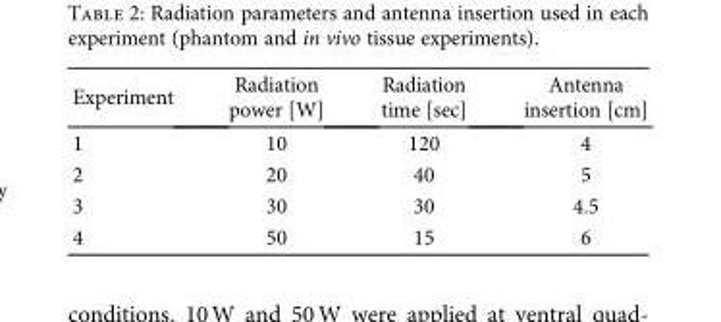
<table><thead><tr><td>Experiment</td><td>Radiation power [W]</td><td>Radiation time [sec]</td><td>Antenna insertion [cm]</td></tr></thead><tbody><tr><td>1</td><td>10</td><td>120</td><td>4</td></tr><tr><td>2</td><td>20</td><td>40</td><td>5</td></tr><tr><td>3</td><td>30</td><td>30</td><td>4.5</td></tr><tr><td>4</td><td>50</td><td>15</td><td>6</td></tr></tbody></table>